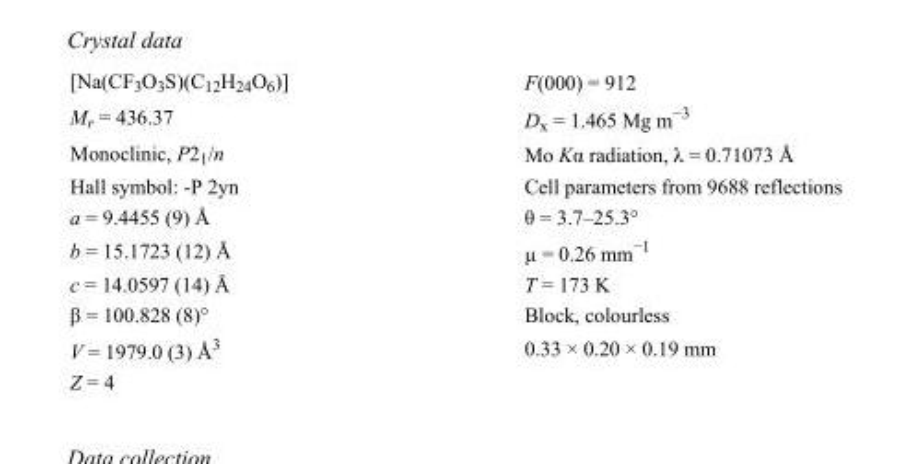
<table><tbody><tr><td>[Na(CF<sub>3</sub>O<sub>3</sub>S)(C<sub>12</sub>H<sub>24</sub>O<sub>6</sub>)]</td><td>F(000) = 912</td></tr><tr><td>M<sub>r</sub> = 436.37</td><td>D<sub>x</sub> = 1.465 Mg m<sup>−3</sup></td></tr><tr><td>Monoclinic, P2<sub>1</sub>/n</td><td>Mo Kα radiation, λ = 0.71073 Å</td></tr><tr><td>Hall symbol: -P 2yn</td><td>Cell parameters from 9688 reflections</td></tr><tr><td>a = 9.4455 (9) Å</td><td>θ = 3.7–25.3°</td></tr><tr><td>b = 15.1723 (12) Å</td><td>µ = 0.26 mm<sup>−1</sup></td></tr><tr><td>c = 14.0597 (14) Å</td><td>T = 173 K</td></tr><tr><td>β = 100.828 (8)°</td><td>Block, colourless</td></tr><tr><td>V = 1979.0 (3) Å<sup>3</sup></td><td>0.33 × 0.20 × 0.19 mm</td></tr><tr><td>Z = 4</td><td></td></tr></tbody></table>